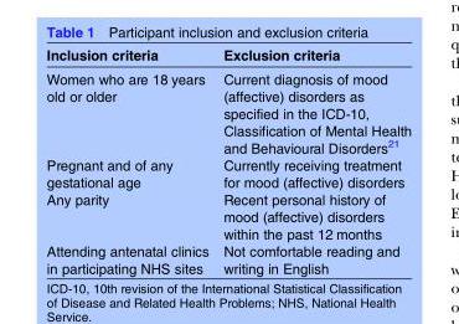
<table><thead><tr><td>Inclusion criteria</td><td>Exclusion criteria</td></tr></thead><tbody><tr><td>Women who are 18 years old or older</td><td>Current diagnosis of mood (affective) disorders as specified in the ICD-10, Classification of Mental Health and Behavioural Disorders<sup>21</sup></td></tr><tr><td>Pregnant and of any gestational age</td><td>Currently receiving treatment for mood (affective) disorders</td></tr><tr><td>Any parity</td><td>Recent personal history of mood (affective) disorders within the past 12 months</td></tr><tr><td>Attending antenatal clinics in participating NHS sites</td><td>Not comfortable reading and writing in English</td></tr></tbody></table>